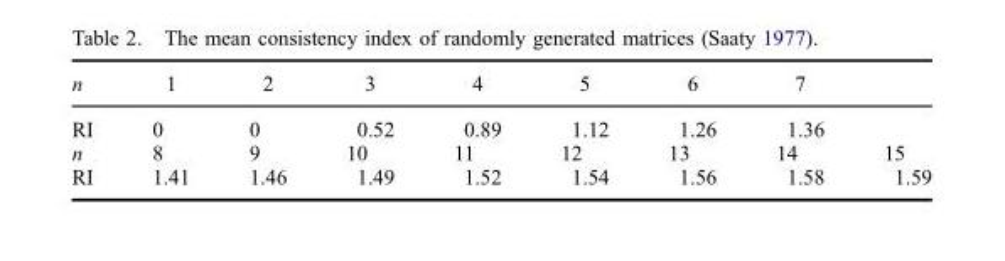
<table><thead><tr><td>n</td><td>1</td><td>2</td><td>3</td><td>4</td><td>5</td><td>6</td><td>7</td><td></td></tr></thead><tbody><tr><td>RI</td><td>0</td><td>0</td><td>0.52</td><td>0.89</td><td>1.12</td><td>1.26</td><td>1.36</td><td></td></tr><tr><td>n</td><td>8</td><td>9</td><td>10</td><td>11</td><td>12</td><td>13</td><td>14</td><td>15</td></tr><tr><td>RI</td><td>1.41</td><td>1.46</td><td>1.49</td><td>1.52</td><td>1.54</td><td>1.56</td><td>1.58</td><td>1.59</td></tr></tbody></table>